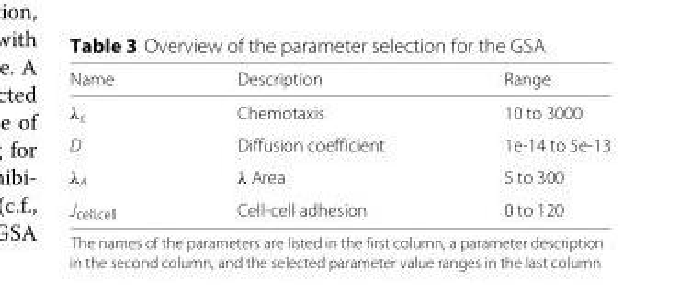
<table><thead><tr><td>Name</td><td>Description</td><td>Range</td></tr></thead><tbody><tr><td>λ<sub>c</sub></td><td>Chemotaxis</td><td>10 to 3000</td></tr><tr><td>D</td><td>Diffusion coefficient</td><td>1e-14 to 5e-13</td></tr><tr><td>λ<sub>A</sub></td><td>λ Area</td><td>5 to 300</td></tr><tr><td>J<sub>cell,cell</sub></td><td>Cell-cell adhesion</td><td>0 to 120</td></tr></tbody></table>